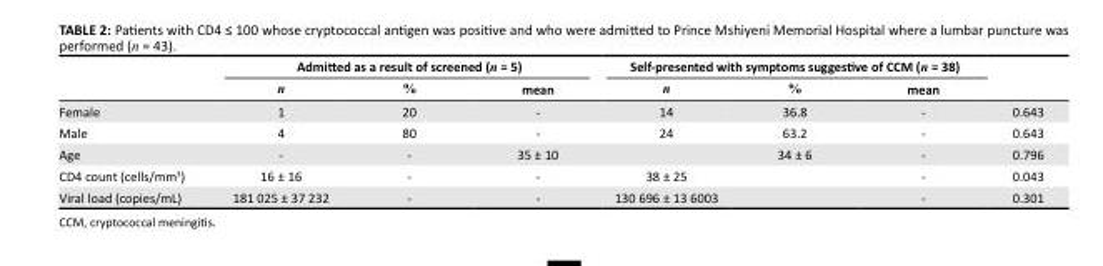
<table><thead><tr><td rowspan="2"></td><td colspan="3">Admitted as a result of screened (n = 5)</td><td colspan="3">Self-presented with symptoms suggestive of CCM (n = 38)</td><td rowspan="2"></td></tr><tr><td>n</td><td>%</td><td>mean</td><td>n</td><td>%</td><td>mean</td></tr></thead><tbody><tr><td>Female</td><td>1</td><td>20</td><td>-</td><td>14</td><td>36.8</td><td>-</td><td>0.643</td></tr><tr><td>Male</td><td>4</td><td>80</td><td>-</td><td>24</td><td>63.2</td><td>-</td><td>0.643</td></tr><tr><td>Age</td><td>-</td><td>-</td><td>35 ± 10</td><td></td><td>34 ± 6</td><td>-</td><td>0.796</td></tr><tr><td>CD4 count (cells/mm<sup>3</sup>)</td><td>16 ± 16</td><td>-</td><td>-</td><td>38 ± 25</td><td></td><td>-</td><td>0.043</td></tr><tr><td>Viral load (copies/mL)</td><td>181 025 ± 37 232</td><td>-</td><td>-</td><td>130 696 ± 13 6003</td><td></td><td>-</td><td>0.301</td></tr></tbody></table>